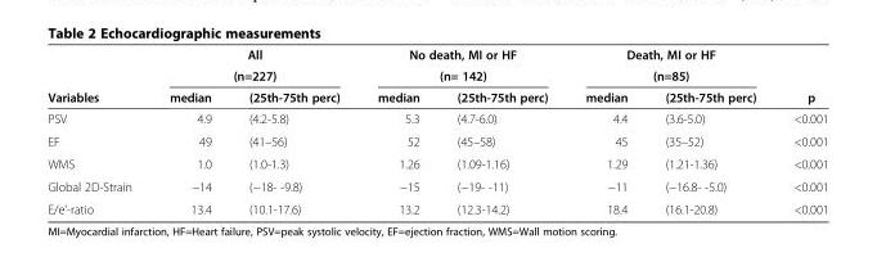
<table><thead><tr><td rowspan="3">Variables</td><td rowspan="2" colspan="2">All (n=227)</td><td rowspan="2" colspan="2">No death, MI or HF (n= 142)</td><td rowspan="2" colspan="2">Death, MI or HF (n=85)</td><td rowspan="3">p</td></tr><tr></tr><tr><td>median</td><td>(25th-75th perc)</td><td>median</td><td>(25th-75th perc)</td><td>median</td><td>(25th-75th perc)</td></tr></thead><tbody><tr><td>PSV</td><td>4.9</td><td>(4.2-5.8)</td><td>5.3</td><td>(4.7-6.0)</td><td>4.4</td><td>(3.6-5.0)</td><td>&lt;0.001</td></tr><tr><td>EF</td><td>49</td><td>(41–56)</td><td>52</td><td>(45–58)</td><td>45</td><td>(35–52)</td><td>&lt;0.001</td></tr><tr><td>WMS</td><td>1.0</td><td>(1.0-1.3)</td><td>1.26</td><td>(1.09-1.16)</td><td>1.29</td><td>(1.21-1.36)</td><td>&lt;0.001</td></tr><tr><td>Global 2D-Strain</td><td>−14</td><td>(−18- -9.8)</td><td>−15</td><td>(−19- -11)</td><td>−11</td><td>(−16.8- -5.0)</td><td>&lt;0.001</td></tr><tr><td>E/e&#x27;-ratio</td><td>13.4</td><td>(10.1-17.6)</td><td>13.2</td><td>(12.3-14.2)</td><td>18.4</td><td>(16.1-20.8)</td><td>&lt;0.001</td></tr></tbody></table>